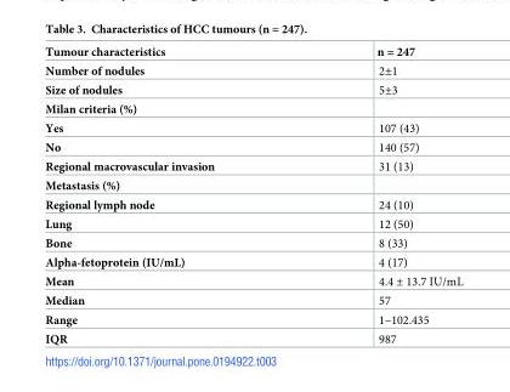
<table><thead><tr><td>Tumour characteristics</td><td>n = 247</td></tr></thead><tbody><tr><td>Number of nodules</td><td>2±1</td></tr><tr><td>Size of nodules</td><td>5±3</td></tr><tr><td colspan="2">Milan criteria (%)</td></tr><tr><td>Yes</td><td>107 (43)</td></tr><tr><td>No</td><td>140 (57)</td></tr><tr><td>Regional macrovascular invasion</td><td>31 (13)</td></tr><tr><td colspan="2">Metastasis (%)</td></tr><tr><td>Regional lymph node</td><td>24 (10)</td></tr><tr><td>Lung</td><td>12 (50)</td></tr><tr><td>Bone</td><td>8 (33)</td></tr><tr><td>Alpha-fetoprotein (IU/mL)</td><td>4 (17)</td></tr><tr><td>Mean</td><td>4.4 ± 13.7 IU/mL</td></tr><tr><td>Median</td><td>57</td></tr><tr><td>Range</td><td>1–102.435</td></tr><tr><td>IQR</td><td>987</td></tr></tbody></table>